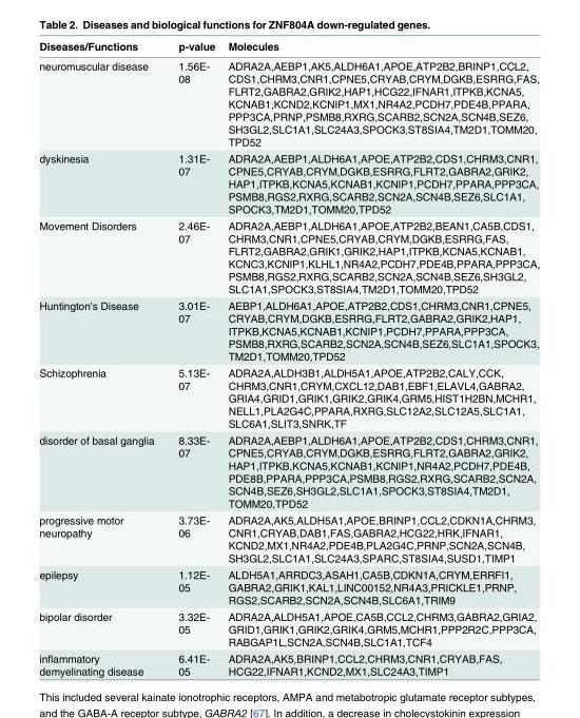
<table><thead><tr><td>Diseases/Functions</td><td>p-value</td><td>Molecules</td></tr></thead><tbody><tr><td>neuromuscular disease</td><td>1.56E- 08</td><td>ADRA2A,AEBP1,AK5,ALDH6A1,APOE,ATP2B2,BRINP1,CCL2, CDS1,CHRM3,CNR1,CPNE5,CRYAB,CRYM,DGKB,ESRRG,FAS, FLRT2,GABRA2,GRIK2,HAP1,HCG22,IFNAR1,ITPKB,KCNA5, KCNAB1,KCND2,KCNIP1,MX1,NR4A2,PCDH7,PDE4B,PPARA, PPP3CA,PRNP,PSMB8,RXRG,SCARB2,SCN2A,SCN4B,SEZ6, SH3GL2,SLC1A1,SLC24A3,SPOCK3,ST8SIA4,TM2D1,TOMM20, TPD52</td></tr><tr><td>dyskinesia</td><td>1.31E- 07</td><td>ADRA2A,AEBP1,ALDH6A1,APOE,ATP2B2,CDS1,CHRM3,CNR1, CPNE5,CRYAB,CRYM,DGKB,ESRRG,FLRT2,GABRA2,GRIK2, HAP1,ITPKB,KCNA5,KCNAB1,KCNIP1,PCDH7,PPARA,PPP3CA, PSMB8,RGS2,RXRG,SCARB2,SCN2A,SCN4B,SEZ6,SLC1A1, SPOCK3,TM2D1,TOMM20,TPD52</td></tr><tr><td>Movement Disorders</td><td>2.46E- 07</td><td>ADRA2A,AEBP1,ALDH6A1,APOE,ATP2B2,BEAN1,CA5B,CDS1, CHRM3,CNR1,CPNE5,CRYAB,CRYM,DGKB,ESRRG,FAS, FLRT2,GABRA2,GRIK1,GRIK2,HAP1,ITPKB,KCNA5,KCNAB1, KCNC3,KCNIP1,KLHL1,NR4A2,PCDH7,PDE4B,PPARA,PPP3CA, PSMB8,RGS2,RXRG,SCARB2,SCN2A,SCN4B,SEZ6,SH3GL2, SLC1A1,SPOCK3,ST8SIA4,TM2D1,TOMM20,TPD52</td></tr><tr><td>Huntington&#x27;s Disease</td><td>3.01E- 07</td><td>AEBP1,ALDH6A1,APOE,ATP2B2,CDS1,CHRM3,CNR1,CPNE5, CRYAB,CRYM,DGKB,ESRRG,FLRT2,GABRA2,GRIK2,HAP1, ITPKB,KCNA5,KCNAB1,KCNIP1,PCDH7,PPARA,PPP3CA, PSMB8,RXRG,SCARB2,SCN2A,SCN4B,SEZ6,SLC1A1,SPOCK3, TM2D1,TOMM20,TPD52</td></tr><tr><td>Schizophrenia</td><td>5.13E- 07</td><td>ADRA2A,ALDH3B1,ALDH5A1,APOE,ATP2B2,CALY,CCK, CHRM3,CNR1,CRYM,CXCL12,DAB1,EBF1,ELAVL4,GABRA2, GRIA4,GRID1,GRIK1,GRIK2,GRIK4,GRM5,HIST1H2BN,MCHR1, NELL1,PLA2G4C,PPARA,RXRG,SLC12A2,SLC12A5,SLC1A1, SLC6A1,SLIT3,SNRK,TF</td></tr><tr><td>disorder of basal ganglia</td><td>8.33E- 07</td><td>ADRA2A,AEBP1,ALDH6A1,APOE,ATP2B2,CDS1,CHRM3,CNR1, CPNE5,CRYAB,CRYM,DGKB,ESRRG,FLRT2,GABRA2,GRIK2, HAP1,ITPKB,KCNA5,KCNAB1,KCNIP1,NR4A2,PCDH7,PDE4B, PDE8B,PPARA,PPP3CA,PSMB8,RGS2,RXRG,SCARB2,SCN2A, SCN4B,SEZ6,SH3GL2,SLC1A1,SPOCK3,ST8SIA4,TM2D1, TOMM20,TPD52</td></tr><tr><td>progressive motor neuropathy</td><td>3.73E- 06</td><td>ADRA2A,AK5,ALDH5A1,APOE,BRINP1,CCL2,CDKN1A,CHRM3, CNR1,CRYAB,DAB1,FAS,GABRA2,HCG22,HRK,IFNAR1, KCND2,MX1,NR4A2,PDE4B,PLA2G4C,PRNP,SCN2A,SCN4B, SH3GL2,SLC1A1,SLC24A3,SPARC,ST8SIA4,SUSD1,TIMP1</td></tr><tr><td>epilepsy</td><td>1.12E- 05</td><td>ALDH5A1,ARRDC3,ASAH1,CA5B,CDKN1A,CRYM,ERRFI1, GABRA2,GRIK1,KAL1,LINC00152,NR4A3,PRICKLE1,PRNP, RGS2,SCARB2,SCN2A,SCN4B,SLC6A1,TRIM9</td></tr><tr><td>bipolar disorder</td><td>3.32E- 05</td><td>ADRA2A,ALDH5A1,APOE,CA5B,CCL2,CHRM3,GABRA2,GRIA2, GRID1,GRIK1,GRIK2,GRIK4,GRM5,MCHR1,PPP2R2C,PPP3CA, RABGAP1L,SCN2A,SCN4B,SLC1A1,TCF4</td></tr><tr><td>inflammatory demyelinating disease</td><td>6.41E- 05</td><td>ADRA2A,AK5,BRINP1,CCL2,CHRM3,CNR1,CRYAB,FAS, HCG22,IFNAR1,KCND2,MX1,SLC24A3,TIMP1</td></tr></tbody></table>